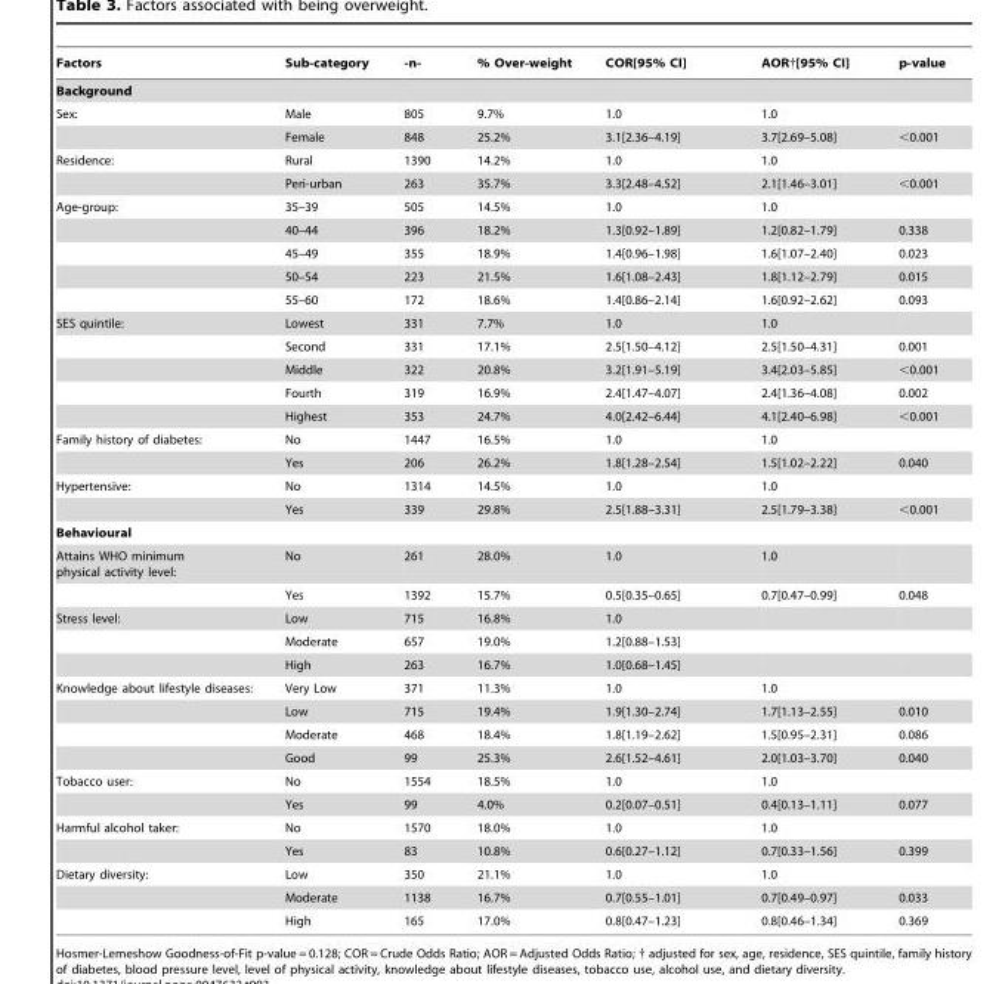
<table><thead><tr><td>Factors</td><td>Sub-category</td><td>-n-</td><td>% Over-weight</td><td>COR[95% CI]</td><td>AOR†[95% CI]</td><td>p-value</td></tr></thead><tbody><tr><td colspan="7">Background</td></tr><tr><td rowspan="2">Sex:</td><td>Male</td><td>805</td><td>9.7%</td><td>1.0</td><td>1.0</td><td></td></tr><tr><td>Female</td><td>848</td><td>25.2%</td><td>3.1[2.36–4.19]</td><td>3.7[2.69–5.08]</td><td>&lt;0.001</td></tr><tr><td rowspan="2">Residence:</td><td>Rural</td><td>1390</td><td>14.2%</td><td>1.0</td><td>1.0</td><td></td></tr><tr><td>Peri-urban</td><td>263</td><td>35.7%</td><td>3.3[2.48–4.52]</td><td>2.1[1.46–3.01]</td><td>&lt;0.001</td></tr><tr><td rowspan="5">Age-group:</td><td>35–39</td><td>505</td><td>14.5%</td><td>1.0</td><td>1.0</td><td></td></tr><tr><td>40–44</td><td>396</td><td>18.2%</td><td>1.3[0.92–1.89]</td><td>1.2[0.82–1.79]</td><td>0.338</td></tr><tr><td>45–49</td><td>355</td><td>18.9%</td><td>1.4[0.96–1.98]</td><td>1.6[1.07–2.40]</td><td>0.023</td></tr><tr><td>50–54</td><td>223</td><td>21.5%</td><td>1.6[1.08–2.43]</td><td>1.8[1.12–2.79]</td><td>0.015</td></tr><tr><td>55–60</td><td>172</td><td>18.6%</td><td>1.4[0.86–2.14]</td><td>1.6[0.92–2.62]</td><td>0.093</td></tr><tr><td rowspan="5">SES quintile:</td><td>Lowest</td><td>331</td><td>7.7%</td><td>1.0</td><td>1.0</td><td></td></tr><tr><td>Second</td><td>331</td><td>17.1%</td><td>2.5[1.50–4.12]</td><td>2.5[1.50–4.31]</td><td>0.001</td></tr><tr><td>Middle</td><td>322</td><td>20.8%</td><td>3.2[1.91–5.19]</td><td>3.4[2.03–5.85]</td><td>&lt;0.001</td></tr><tr><td>Fourth</td><td>319</td><td>16.9%</td><td>2.4[1.47–4.07]</td><td>2.4[1.36–4.08]</td><td>0.002</td></tr><tr><td>Highest</td><td>353</td><td>24.7%</td><td>4.0[2.42–6.44]</td><td>4.1[2.40–6.98]</td><td>&lt;0.001</td></tr><tr><td rowspan="2">Family history of diabetes:</td><td>No</td><td>1447</td><td>16.5%</td><td>1.0</td><td>1.0</td><td></td></tr><tr><td>Yes</td><td>206</td><td>26.2%</td><td>1.8[1.28–2.54]</td><td>1.5[1.02–2.22]</td><td>0.040</td></tr><tr><td rowspan="2">Hypertensive:</td><td>No</td><td>1314</td><td>14.5%</td><td>1.0</td><td>1.0</td><td></td></tr><tr><td>Yes</td><td>339</td><td>29.8%</td><td>2.5[1.88–3.31]</td><td>2.5[1.79–3.38]</td><td>&lt;0.001</td></tr><tr><td colspan="7">Behavioural</td></tr><tr><td rowspan="2">Attains WHO minimum physical activity level:</td><td>No</td><td>261</td><td>28.0%</td><td>1.0</td><td>1.0</td><td></td></tr><tr><td>Yes</td><td>1392</td><td>15.7%</td><td>0.5[0.35–0.65]</td><td>0.7[0.47–0.99]</td><td>0.048</td></tr><tr><td rowspan="3">Stress level:</td><td>Low</td><td>715</td><td>16.8%</td><td>1.0</td><td></td><td></td></tr><tr><td>Moderate</td><td>657</td><td>19.0%</td><td>1.2[0.88–1.53]</td><td></td><td></td></tr><tr><td>High</td><td>263</td><td>16.7%</td><td>1.0[0.68–1.45]</td><td></td><td></td></tr><tr><td rowspan="4">Knowledge about lifestyle diseases:</td><td>Very Low</td><td>371</td><td>11.3%</td><td>1.0</td><td>1.0</td><td></td></tr><tr><td>Low</td><td>715</td><td>19.4%</td><td>1.9[1.30–2.74]</td><td>1.7[1.13–2.55]</td><td>0.010</td></tr><tr><td>Moderate</td><td>468</td><td>18.4%</td><td>1.8[1.19–2.62]</td><td>1.5[0.95–2.31]</td><td>0.086</td></tr><tr><td>Good</td><td>99</td><td>25.3%</td><td>2.6[1.52–4.61]</td><td>2.0[1.03–3.70]</td><td>0.040</td></tr><tr><td rowspan="2">Tobacco user:</td><td>No</td><td>1554</td><td>18.5%</td><td>1.0</td><td>1.0</td><td></td></tr><tr><td>Yes</td><td>99</td><td>4.0%</td><td>0.2[0.07–0.51]</td><td>0.4[0.13–1.11]</td><td>0.077</td></tr><tr><td rowspan="2">Harmful alcohol taker:</td><td>No</td><td>1570</td><td>18.0%</td><td>1.0</td><td>1.0</td><td></td></tr><tr><td>Yes</td><td>83</td><td>10.8%</td><td>0.6[0.27–1.12]</td><td>0.7[0.33–1.56]</td><td>0.399</td></tr><tr><td rowspan="3">Dietary diversity:</td><td>Low</td><td>350</td><td>21.1%</td><td>1.0</td><td>1.0</td><td></td></tr><tr><td>Moderate</td><td>1138</td><td>16.7%</td><td>0.7[0.55–1.01]</td><td>0.7[0.49–0.97]</td><td>0.033</td></tr><tr><td>High</td><td>165</td><td>17.0%</td><td>0.8[0.47–1.23]</td><td>0.8[0.46–1.34]</td><td>0.369</td></tr></tbody></table>